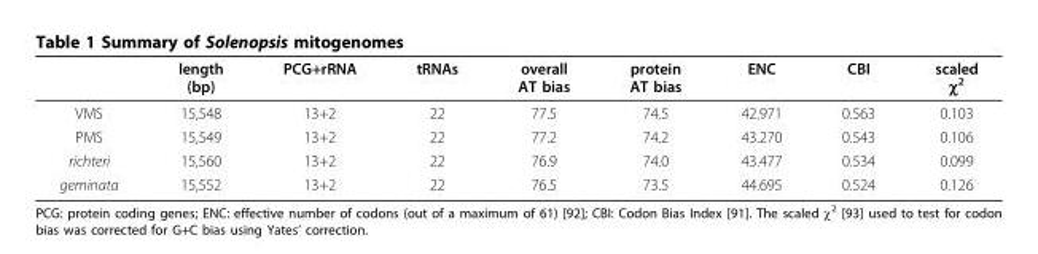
<table><thead><tr><td></td><td>length (bp)</td><td>PCG+rRNA</td><td>tRNAs</td><td>overall AT bias</td><td>protein AT bias</td><td>ENC</td><td>CBI</td><td>scaled χ<sup>2</sup></td></tr></thead><tbody><tr><td>VMS</td><td>15,548</td><td>13+2</td><td>22</td><td>77.5</td><td>74.5</td><td>42.971</td><td>0.563</td><td>0.103</td></tr><tr><td>PMS</td><td>15,549</td><td>13+2</td><td>22</td><td>77.2</td><td>74.2</td><td>43.270</td><td>0.543</td><td>0.106</td></tr><tr><td>richteri</td><td>15,560</td><td>13+2</td><td>22</td><td>76.9</td><td>74.0</td><td>43.477</td><td>0.534</td><td>0.099</td></tr><tr><td>geminata</td><td>15,552</td><td>13+2</td><td>22</td><td>76.5</td><td>73.5</td><td>44.695</td><td>0.524</td><td>0.126</td></tr></tbody></table>